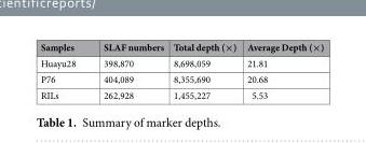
<table><thead><tr><td>Samples</td><td>SLAF numbers</td><td>Total depth (×)</td><td>Average Depth (×)</td></tr></thead><tbody><tr><td>Huayu28</td><td>398,870</td><td>8,698,059</td><td>21.81</td></tr><tr><td>P76</td><td>404,089</td><td>8,355,690</td><td>20.68</td></tr><tr><td>RILs</td><td>262,928</td><td>1,455,227</td><td>5.53</td></tr></tbody></table>